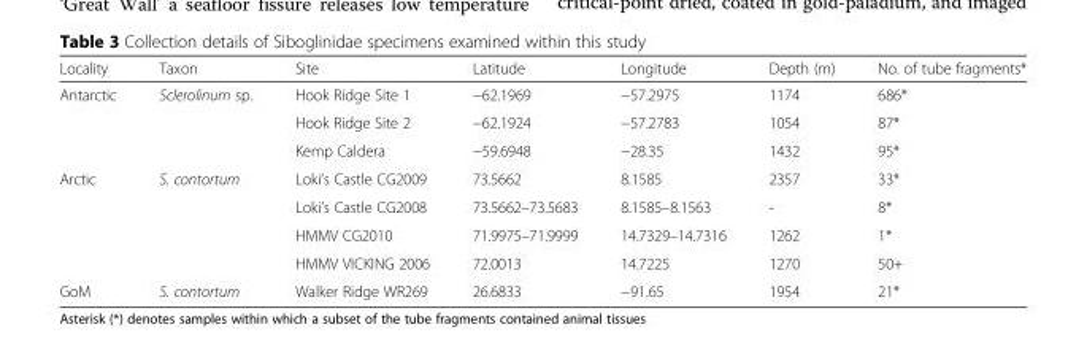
<table><thead><tr><td>Locality</td><td>Taxon</td><td>Site</td><td>Latitude</td><td>Longitude</td><td>Depth (m)</td><td>No. of tube fragments*</td></tr></thead><tbody><tr><td rowspan="3">Antarctic</td><td>Sclerolinum sp.</td><td>Hook Ridge Site 1</td><td>−62.1969</td><td>−57.2975</td><td>1174</td><td>686*</td></tr><tr><td></td><td>Hook Ridge Site 2</td><td>−62.1924</td><td>−57.2783</td><td>1054</td><td>87*</td></tr><tr><td></td><td>Kemp Caldera</td><td>−59.6948</td><td>−28.35</td><td>1432</td><td>95*</td></tr><tr><td rowspan="4">Arctic</td><td>S. contortum</td><td>Loki’s Castle CG2009</td><td>73.5662</td><td>8.1585</td><td>2357</td><td>33*</td></tr><tr><td></td><td>Loki’s Castle CG2008</td><td>73.5662–73.5683</td><td>8.1585–8.1563</td><td>-</td><td>8*</td></tr><tr><td></td><td>HMMV CG2010</td><td>71.9975–71.9999</td><td>14.7329–14.7316</td><td>1262</td><td>1*</td></tr><tr><td></td><td>HMMV VICKING 2006</td><td>72.0013</td><td>14.7225</td><td>1270</td><td>50+</td></tr><tr><td>GoM</td><td>S. contortum</td><td>Walker Ridge WR269</td><td>26.6833</td><td>−91.65</td><td>1954</td><td>21*</td></tr></tbody></table>